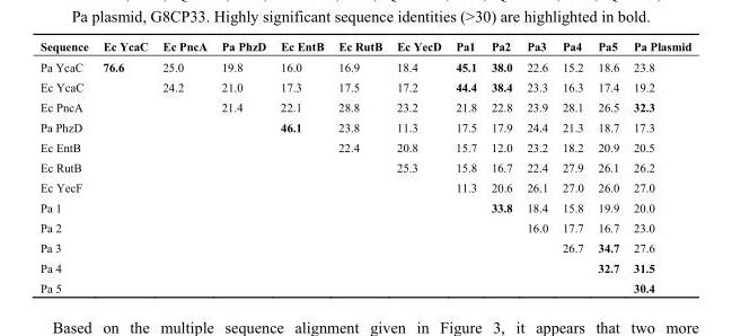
<table><thead><tr><td>Sequence</td><td>Ec YcaC</td><td>Ec PncA</td><td>Pa PhzD</td><td>Ec EntB</td><td>Ec RutB</td><td>Ec YecD</td><td>Pa1</td><td>Pa2</td><td>Pa3</td><td>Pa4</td><td>Pa5</td><td>Pa Plasmid</td></tr></thead><tbody><tr><td>Pa YcaC</td><td>76.6</td><td>25.0</td><td>19.8</td><td>16.0</td><td>16.9</td><td>18.4</td><td>45.1</td><td>38.0</td><td>22.6</td><td>15.2</td><td>18.6</td><td>23.8</td></tr><tr><td>Ec YcaC</td><td></td><td>24.2</td><td>21.0</td><td>17.3</td><td>17.5</td><td>17.2</td><td>44.4</td><td>38.4</td><td>23.3</td><td>16.3</td><td>17.4</td><td>19.2</td></tr><tr><td>Ec PncA</td><td></td><td></td><td>21.4</td><td>22.1</td><td>28.8</td><td>23.2</td><td>21.8</td><td>22.8</td><td>23.9</td><td>28.1</td><td>26.5</td><td>32.3</td></tr><tr><td>Pa PhzD</td><td></td><td></td><td></td><td>46.1</td><td>23.8</td><td>11.3</td><td>17.5</td><td>17.9</td><td>24.4</td><td>21.3</td><td>18.7</td><td>17.3</td></tr><tr><td>Ec EntB</td><td></td><td></td><td></td><td></td><td>22.4</td><td>20.8</td><td>15.7</td><td>12.0</td><td>23.2</td><td>18.2</td><td>20.9</td><td>20.5</td></tr><tr><td>Ec RutB</td><td></td><td></td><td></td><td></td><td></td><td>25.3</td><td>15.8</td><td>16.7</td><td>22.4</td><td>27.9</td><td>26.1</td><td>26.2</td></tr><tr><td>Ec YecF</td><td></td><td></td><td></td><td></td><td></td><td></td><td>11.3</td><td>20.6</td><td>26.1</td><td>27.0</td><td>26.0</td><td>27.0</td></tr><tr><td>Pa 1</td><td></td><td></td><td></td><td></td><td></td><td></td><td></td><td>33.8</td><td>18.4</td><td>15.8</td><td>19.9</td><td>20.0</td></tr><tr><td>Pa 2</td><td></td><td></td><td></td><td></td><td></td><td></td><td></td><td></td><td>16.0</td><td>17.7</td><td>16.7</td><td>23.0</td></tr><tr><td>Pa 3</td><td></td><td></td><td></td><td></td><td></td><td></td><td></td><td></td><td></td><td>26.7</td><td>34.7</td><td>27.6</td></tr><tr><td>Pa 4</td><td></td><td></td><td></td><td></td><td></td><td></td><td></td><td></td><td></td><td></td><td>32.7</td><td>31.5</td></tr><tr><td>Pa 5</td><td></td><td></td><td></td><td></td><td></td><td></td><td></td><td></td><td></td><td></td><td></td><td>30.4</td></tr></tbody></table>